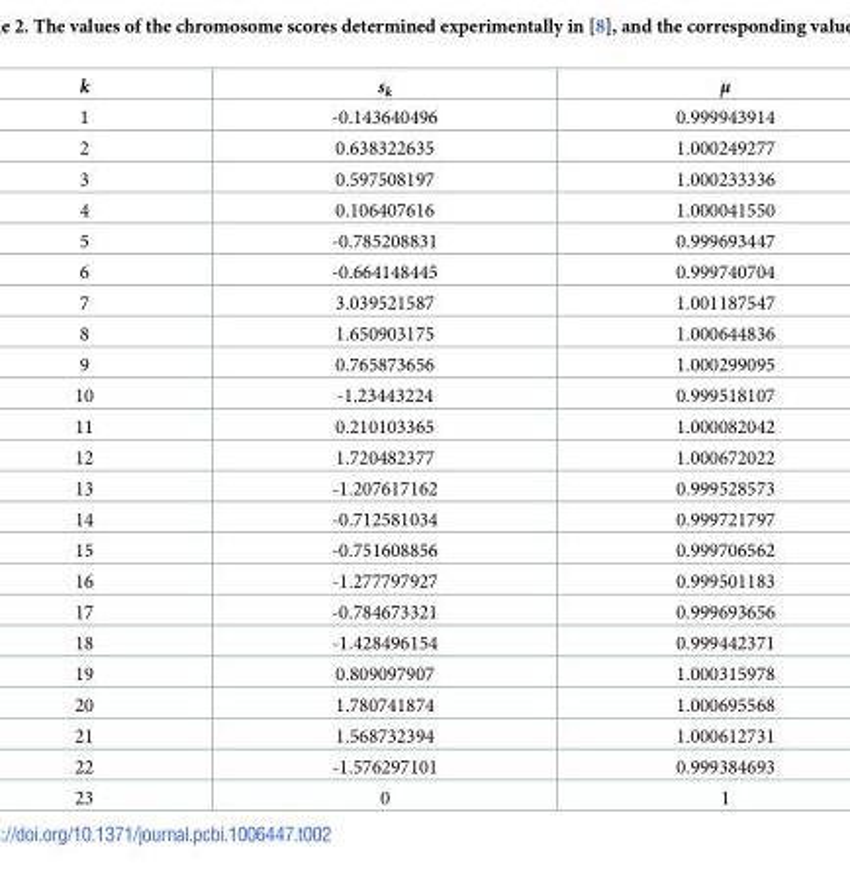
<table><thead><tr><td>k</td><td>s<sub>k</sub></td><td>μ</td></tr></thead><tbody><tr><td>1</td><td>-0.143640496</td><td>0.999943914</td></tr><tr><td>2</td><td>0.638322635</td><td>1.000249277</td></tr><tr><td>3</td><td>0.597508197</td><td>1.000233336</td></tr><tr><td>4</td><td>0.106407616</td><td>1.000041550</td></tr><tr><td>5</td><td>-0.785208831</td><td>0.999693447</td></tr><tr><td>6</td><td>-0.664148445</td><td>0.999740704</td></tr><tr><td>7</td><td>3.039521587</td><td>1.001187547</td></tr><tr><td>8</td><td>1.650903175</td><td>1.000644836</td></tr><tr><td>9</td><td>0.765873656</td><td>1.000299095</td></tr><tr><td>10</td><td>-1.23443224</td><td>0.999518107</td></tr><tr><td>11</td><td>0.210103365</td><td>1.000082042</td></tr><tr><td>12</td><td>1.720482377</td><td>1.000672022</td></tr><tr><td>13</td><td>-1.207617162</td><td>0.999528573</td></tr><tr><td>14</td><td>-0.712581034</td><td>0.999721797</td></tr><tr><td>15</td><td>-0.751608856</td><td>0.999706562</td></tr><tr><td>16</td><td>-1.277797927</td><td>0.999501183</td></tr><tr><td>17</td><td>-0.784673321</td><td>0.999693656</td></tr><tr><td>18</td><td>-1.428496154</td><td>0.999442371</td></tr><tr><td>19</td><td>0.809097907</td><td>1.000315978</td></tr><tr><td>20</td><td>1.780741874</td><td>1.000695568</td></tr><tr><td>21</td><td>1.568732394</td><td>1.000612731</td></tr><tr><td>22</td><td>-1.576297101</td><td>0.999384693</td></tr><tr><td>23</td><td>0</td><td>1</td></tr></tbody></table>